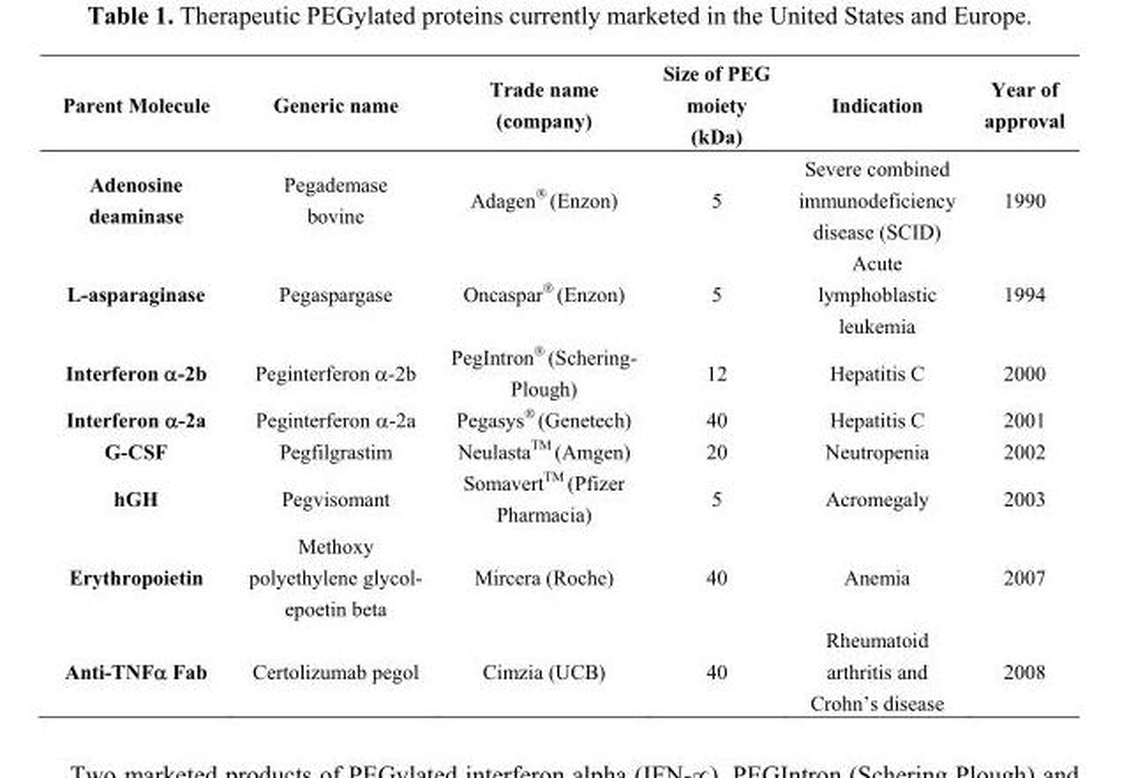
<table><thead><tr><td>Parent Molecule</td><td>Generic name</td><td>Trade name (company)</td><td>Size of PEG moiety (kDa)</td><td>Indication</td><td>Year of approval</td></tr></thead><tbody><tr><td>Adenosine deaminase</td><td>Pegademase bovine</td><td>Adagen<sup>®</sup> (Enzon)</td><td>5</td><td>Severe combined immunodeficiency disease (SCID)</td><td>1990</td></tr><tr><td>L-asparaginase</td><td>Pegaspargase</td><td>Oncaspar<sup>®</sup> (Enzon)</td><td>5</td><td>Acute lymphoblastic leukemia</td><td>1994</td></tr><tr><td>Interferon α-2b</td><td>Peginterferon α-2b</td><td>PegIntron<sup>®</sup> (Schering- Plough)</td><td>12</td><td>Hepatitis C</td><td>2000</td></tr><tr><td>Interferon α-2a</td><td>Peginterferon α-2a</td><td>Pegasys<sup>®</sup> (Genetech)</td><td>40</td><td>Hepatitis C</td><td>2001</td></tr><tr><td>G-CSF</td><td>Pegfilgrastim</td><td>Neulasta<sup>TM</sup> (Amgen)</td><td>20</td><td>Neutropenia</td><td>2002</td></tr><tr><td>hGH</td><td>Pegvisomant</td><td>Somavert<sup>TM</sup> (Pfizer Pharmacia)</td><td>5</td><td>Acromegaly</td><td>2003</td></tr><tr><td>Erythropoietin</td><td>Methoxy polyethylene glycol- epoetin beta</td><td>Mircera (Roche)</td><td>40</td><td>Anemia</td><td>2007</td></tr><tr><td>Anti-TNFα Fab</td><td>Certolizumab pegol</td><td>Cimzia (UCB)</td><td>40</td><td>Rheumatoid arthritis and Crohn’s disease</td><td>2008</td></tr></tbody></table>